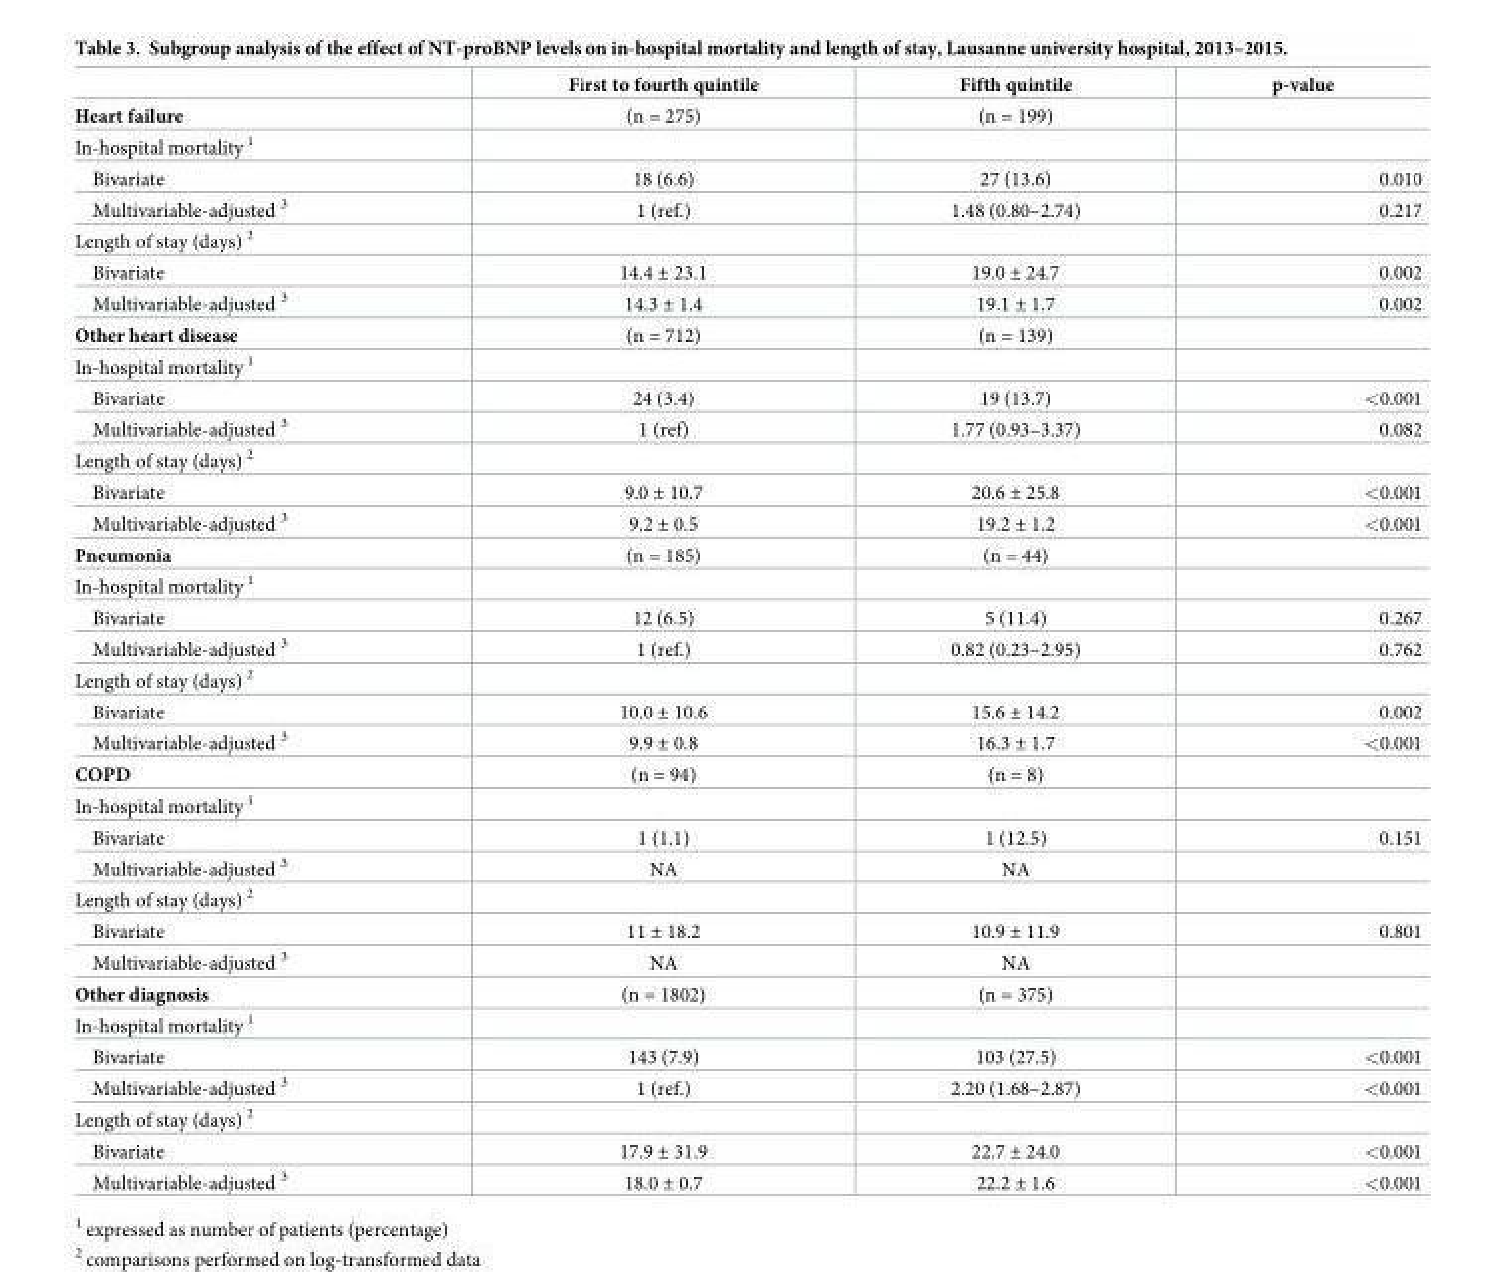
<table><thead><tr><td></td><td>First to fourth quintile</td><td>Fifth quintile</td><td>p-value</td></tr></thead><tbody><tr><td>Heart failure</td><td>(n = 275)</td><td>(n = 199)</td><td></td></tr><tr><td colspan="4">In-hospital mortality <sup>1</sup></td></tr><tr><td>Bivariate</td><td>18 (6.6)</td><td>27 (13.6)</td><td>0.010</td></tr><tr><td>Multivariable-adjusted <sup>3</sup></td><td>1 (ref.)</td><td>1.48 (0.80–2.74)</td><td>0.217</td></tr><tr><td colspan="4">Length of stay (days) <sup>2</sup></td></tr><tr><td>Bivariate</td><td>14.4 ± 23.1</td><td>19.0 ± 24.7</td><td>0.002</td></tr><tr><td>Multivariable-adjusted <sup>3</sup></td><td>14.3 ± 1.4</td><td>19.1 ± 1.7</td><td>0.002</td></tr><tr><td>Other heart disease</td><td>(n = 712)</td><td>(n = 139)</td><td></td></tr><tr><td colspan="4">In-hospital mortality <sup>1</sup></td></tr><tr><td>Bivariate</td><td>24 (3.4)</td><td>19 (13.7)</td><td>&lt;0.001</td></tr><tr><td>Multivariable-adjusted <sup>3</sup></td><td>1 (ref)</td><td>1.77 (0.93–3.37)</td><td>0.082</td></tr><tr><td colspan="4">Length of stay (days) <sup>2</sup></td></tr><tr><td>Bivariate</td><td>9.0 ± 10.7</td><td>20.6 ± 25.8</td><td>&lt;0.001</td></tr><tr><td>Multivariable-adjusted <sup>3</sup></td><td>9.2 ± 0.5</td><td>19.2 ± 1.2</td><td>&lt;0.001</td></tr><tr><td>Pneumonia</td><td>(n = 185)</td><td>(n = 44)</td><td></td></tr><tr><td colspan="4">In-hospital mortality <sup>1</sup></td></tr><tr><td>Bivariate</td><td>12 (6.5)</td><td>5 (11.4)</td><td>0.267</td></tr><tr><td>Multivariable-adjusted <sup>3</sup></td><td>1 (ref.)</td><td>0.82 (0.23–2.95)</td><td>0.762</td></tr><tr><td colspan="4">Length of stay (days) <sup>2</sup></td></tr><tr><td>Bivariate</td><td>10.0 ± 10.6</td><td>15.6 ± 14.2</td><td>0.002</td></tr><tr><td>Multivariable-adjusted <sup>3</sup></td><td>9.9 ± 0.8</td><td>16.3 ± 1.7</td><td>&lt;0.001</td></tr><tr><td>COPD</td><td>(n = 94)</td><td>(n = 8)</td><td></td></tr><tr><td colspan="4">In-hospital mortality <sup>1</sup></td></tr><tr><td>Bivariate</td><td>1 (1.1)</td><td>1 (12.5)</td><td>0.151</td></tr><tr><td>Multivariable-adjusted <sup>3</sup></td><td>NA</td><td>NA</td><td></td></tr><tr><td colspan="4">Length of stay (days) <sup>2</sup></td></tr><tr><td>Bivariate</td><td>11 ± 18.2</td><td>10.9 ± 11.9</td><td>0.801</td></tr><tr><td>Multivariable-adjusted <sup>3</sup></td><td>NA</td><td>NA</td><td></td></tr><tr><td>Other diagnosis</td><td>(n = 1802)</td><td>(n = 375)</td><td></td></tr><tr><td colspan="4">In-hospital mortality <sup>1</sup></td></tr><tr><td>Bivariate</td><td>143 (7.9)</td><td>103 (27.5)</td><td>&lt;0.001</td></tr><tr><td>Multivariable-adjusted <sup>3</sup></td><td>1 (ref.)</td><td>2.20 (1.68–2.87)</td><td>&lt;0.001</td></tr><tr><td colspan="4">Length of stay (days) <sup>2</sup></td></tr><tr><td>Bivariate</td><td>17.9 ± 31.9</td><td>22.7 ± 24.0</td><td>&lt;0.001</td></tr><tr><td>Multivariable-adjusted <sup>3</sup></td><td>18.0 ± 0.7</td><td>22.2 ± 1.6</td><td>&lt;0.001</td></tr></tbody></table>